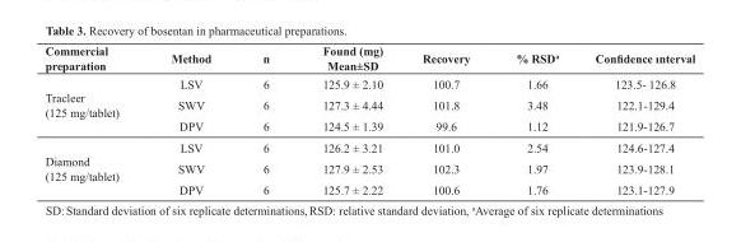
<table><thead><tr><td>Commercial preparation</td><td>Method</td><td>n</td><td>Found (mg) Mean±SD</td><td>Recovery</td><td>% RSDa</td><td>Confidence ınterval</td></tr></thead><tbody><tr><td rowspan="3">Tracleer (125 mg/tablet)</td><td>LSV</td><td>6</td><td>125.9 ± 2.10</td><td>100.7</td><td>1.66</td><td>123.5- 126.8</td></tr><tr><td>SWV</td><td>6</td><td>127.3 ± 4.44</td><td>101.8</td><td>3.48</td><td>122.1-129.4</td></tr><tr><td>DPV</td><td>6</td><td>124.5 ± 1.39</td><td>99.6</td><td>1.12</td><td>121.9-126.7</td></tr><tr><td rowspan="3">Diamond (125 mg/tablet)</td><td>LSV</td><td>6</td><td>126.2 ± 3.21</td><td>101.0</td><td>2.54</td><td>124.6-127.4</td></tr><tr><td>SWV</td><td>6</td><td>127.9 ± 2.53</td><td>102.3</td><td>1.97</td><td>123.9-128.1</td></tr><tr><td>DPV</td><td>6</td><td>125.7 ± 2.22</td><td>100.6</td><td>1.76</td><td>123.1-127.9</td></tr></tbody></table>